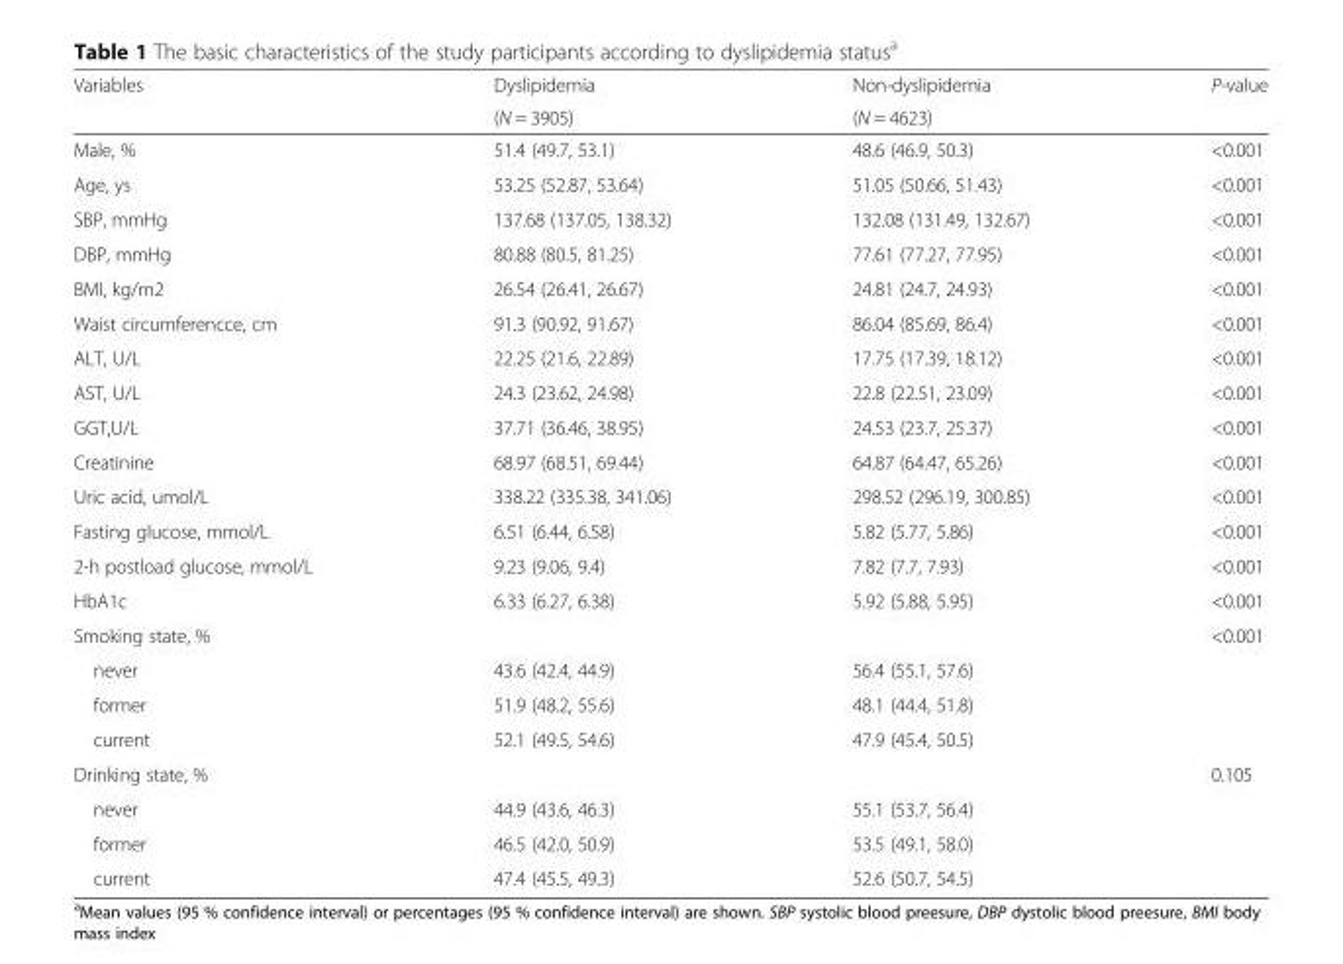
<table><thead><tr><td rowspan="2">Variables</td><td rowspan="2">Dyslipidemia (N = 3905)</td><td rowspan="2">Non-dyslipidemia (N = 4623)</td><td rowspan="2">P-value</td></tr><tr></tr></thead><tbody><tr><td>Male, %</td><td>51.4 (49.7, 53.1)</td><td>48.6 (46.9, 50.3)</td><td>&lt;0.001</td></tr><tr><td>Age, ys</td><td>53.25 (52.87, 53.64)</td><td>51.05 (50.66, 51.43)</td><td>&lt;0.001</td></tr><tr><td>SBP, mmHg</td><td>137.68 (137.05, 138.32)</td><td>132.08 (131.49, 132.67)</td><td>&lt;0.001</td></tr><tr><td>DBP, mmHg</td><td>80.88 (80.5, 81.25)</td><td>77.61 (77.27, 77.95)</td><td>&lt;0.001</td></tr><tr><td>BMI, kg/m2</td><td>26.54 (26.41, 26.67)</td><td>24.81 (24.7, 24.93)</td><td>&lt;0.001</td></tr><tr><td>Waist circumferencce, cm</td><td>91.3 (90.92, 91.67)</td><td>86.04 (85.69, 86.4)</td><td>&lt;0.001</td></tr><tr><td>ALT, U/L</td><td>22.25 (21.6, 22.89)</td><td>17.75 (17.39, 18.12)</td><td>&lt;0.001</td></tr><tr><td>AST, U/L</td><td>24.3 (23.62, 24.98)</td><td>22.8 (22.51, 23.09)</td><td>&lt;0.001</td></tr><tr><td>GGT,U/L</td><td>37.71 (36.46, 38.95)</td><td>24.53 (23.7, 25.37)</td><td>&lt;0.001</td></tr><tr><td>Creatinine</td><td>68.97 (68.51, 69.44)</td><td>64.87 (64.47, 65.26)</td><td>&lt;0.001</td></tr><tr><td>Uric acid, umol/L</td><td>338.22 (335.38, 341.06)</td><td>298.52 (296.19, 300.85)</td><td>&lt;0.001</td></tr><tr><td>Fasting glucose, mmol/L</td><td>6.51 (6.44, 6.58)</td><td>5.82 (5.77, 5.86)</td><td>&lt;0.001</td></tr><tr><td>2-h postload glucose, mmol/L</td><td>9.23 (9.06, 9.4)</td><td>7.82 (7.7, 7.93)</td><td>&lt;0.001</td></tr><tr><td>HbA1c</td><td>6.33 (6.27, 6.38)</td><td>5.92 (5.88, 5.95)</td><td>&lt;0.001</td></tr><tr><td colspan="3">Smoking state, %</td><td>&lt;0.001</td></tr><tr><td>never</td><td>43.6 (42.4, 44.9)</td><td>56.4 (55.1, 57.6)</td><td></td></tr><tr><td>former</td><td>51.9 (48.2, 55.6)</td><td>48.1 (44.4, 51.8)</td><td></td></tr><tr><td>current</td><td>52.1 (49.5, 54.6)</td><td>47.9 (45.4, 50.5)</td><td></td></tr><tr><td colspan="3">Drinking state, %</td><td>0.105</td></tr><tr><td>never</td><td>44.9 (43.6, 46.3)</td><td>55.1 (53.7, 56.4)</td><td></td></tr><tr><td>former</td><td>46.5 (42.0, 50.9)</td><td>53.5 (49.1, 58.0)</td><td></td></tr><tr><td>current</td><td>47.4 (45.5, 49.3)</td><td>52.6 (50.7, 54.5)</td><td></td></tr></tbody></table>